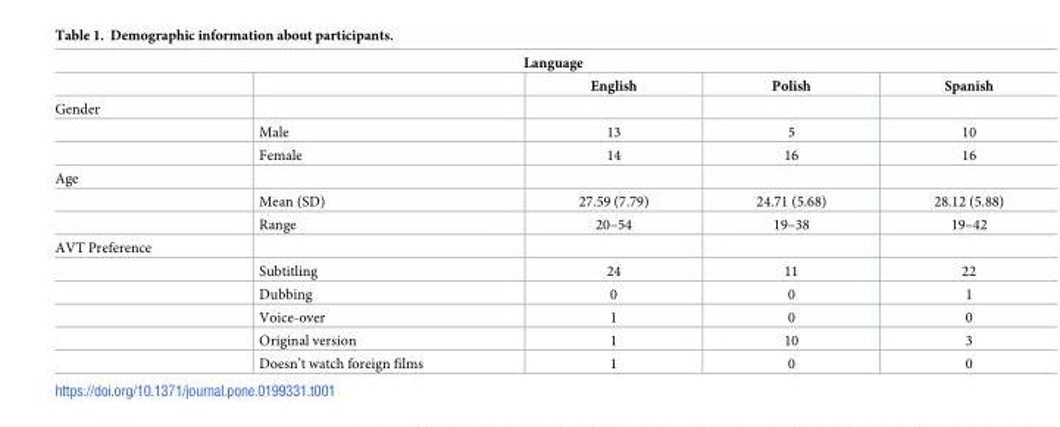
<table><thead><tr><td colspan="5">Language</td></tr><tr><td></td><td></td><td>English</td><td>Polish</td><td>Spanish</td></tr></thead><tbody><tr><td colspan="5">Gender</td></tr><tr><td></td><td>Male</td><td>13</td><td>5</td><td>10</td></tr><tr><td></td><td>Female</td><td>14</td><td>16</td><td>16</td></tr><tr><td colspan="5">Age</td></tr><tr><td></td><td>Mean (SD)</td><td>27.59 (7.79)</td><td>24.71 (5.68)</td><td>28.12 (5.88)</td></tr><tr><td></td><td>Range</td><td>20–54</td><td>19–38</td><td>19–42</td></tr><tr><td colspan="5">AVT Preference</td></tr><tr><td></td><td>Subtitling</td><td>24</td><td>11</td><td>22</td></tr><tr><td></td><td>Dubbing</td><td>0</td><td>0</td><td>1</td></tr><tr><td></td><td>Voice-over</td><td>1</td><td>0</td><td>0</td></tr><tr><td></td><td>Original version</td><td>1</td><td>10</td><td>3</td></tr><tr><td></td><td>Doesn’t watch foreign films</td><td>1</td><td>0</td><td>0</td></tr></tbody></table>